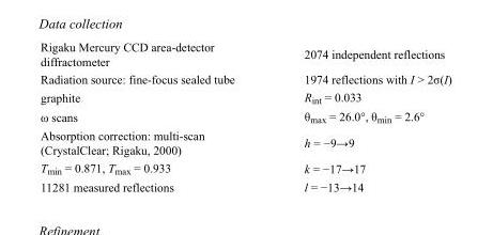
<table><tbody><tr><td>Rigaku Mercury CCD area-detector diffractometer</td><td>2074 independent reflections</td></tr><tr><td>Radiation source: fine-focus sealed tube</td><td>1974 reflections with I &gt; 2σ(I)</td></tr><tr><td>graphite</td><td>R<sub>int</sub> = 0.033</td></tr><tr><td>ω scans</td><td>θ<sub>max</sub> = 26.0°, θ<sub>min</sub> = 2.6°</td></tr><tr><td>Absorption correction: multi-scan (CrystalClear; Rigaku, 2000)</td><td>h = −9→9</td></tr><tr><td>T<sub>min</sub> = 0.871, T<sub>max</sub> = 0.933</td><td>k = −17→17</td></tr><tr><td>11281 measured reflections</td><td>l = −13→14</td></tr></tbody></table>